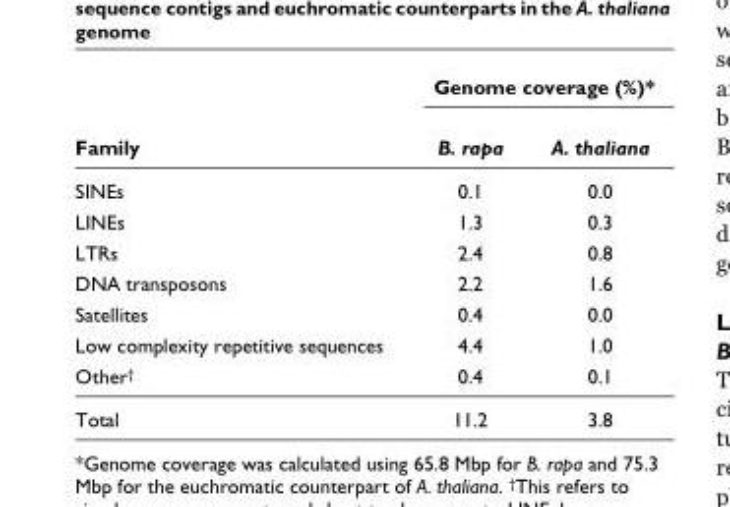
<table><thead><tr><td rowspan="2">Family</td><td colspan="2">Genome coverage (%)*</td></tr><tr><td>B. rapa</td><td>A. thaliana</td></tr></thead><tbody><tr><td>SINEs</td><td>0.1</td><td>0.0</td></tr><tr><td>LINEs</td><td>1.3</td><td>0.3</td></tr><tr><td>LTRs</td><td>2.4</td><td>0.8</td></tr><tr><td>DNA transposons</td><td>2.2</td><td>1.6</td></tr><tr><td>Satellites</td><td>0.4</td><td>0.0</td></tr><tr><td>Low complexity repetitive sequences</td><td>4.4</td><td>1.0</td></tr><tr><td>Other<sup>†</sup></td><td>0.4</td><td>0.1</td></tr><tr><td>Total</td><td>11.2</td><td>3.8</td></tr></tbody></table>